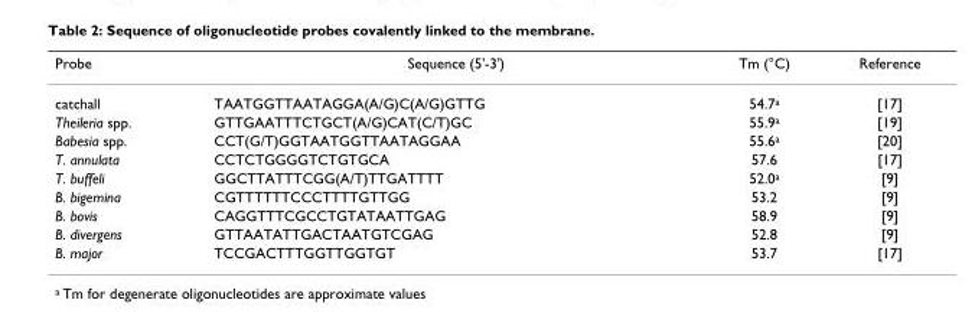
<table><thead><tr><td>Probe</td><td>Sequence (5&#x27;-3&#x27;)</td><td>Tm (°C)</td><td>Reference</td></tr></thead><tbody><tr><td>catchall</td><td>TAATGGTTAATAGGA(A/G)C(A/G)GTTG</td><td>54.7a</td><td>[17]</td></tr><tr><td>Theileria spp.</td><td>GTTGAATTTCTGCT(A/G)CAT(C/T)GC</td><td>55.9a</td><td>[19]</td></tr><tr><td>Babesia spp.</td><td>CCT(G/T)GGTAATGGTTAATAGGAA</td><td>55.6a</td><td>[20]</td></tr><tr><td>T. annulata</td><td>CCTCTGGGGTCTGTGCA</td><td>57.6</td><td>[17]</td></tr><tr><td>T. buffeli</td><td>GGCTTATTTCGG(A/T)TTGATTTT</td><td>52.0a</td><td>[9]</td></tr><tr><td>B. bigemina</td><td>CGTTTTTTCCCTTTTGTTGG</td><td>53.2</td><td>[9]</td></tr><tr><td>B. bovis</td><td>CAGGTTTCGCCTGTATAATTGAG</td><td>58.9</td><td>[9]</td></tr><tr><td>B. divergens</td><td>GTTAATATTGACTAATGTCGAG</td><td>52.8</td><td>[9]</td></tr><tr><td>B. major</td><td>TCCGACTTTGGTTGGTGT</td><td>53.7</td><td>[17]</td></tr></tbody></table>